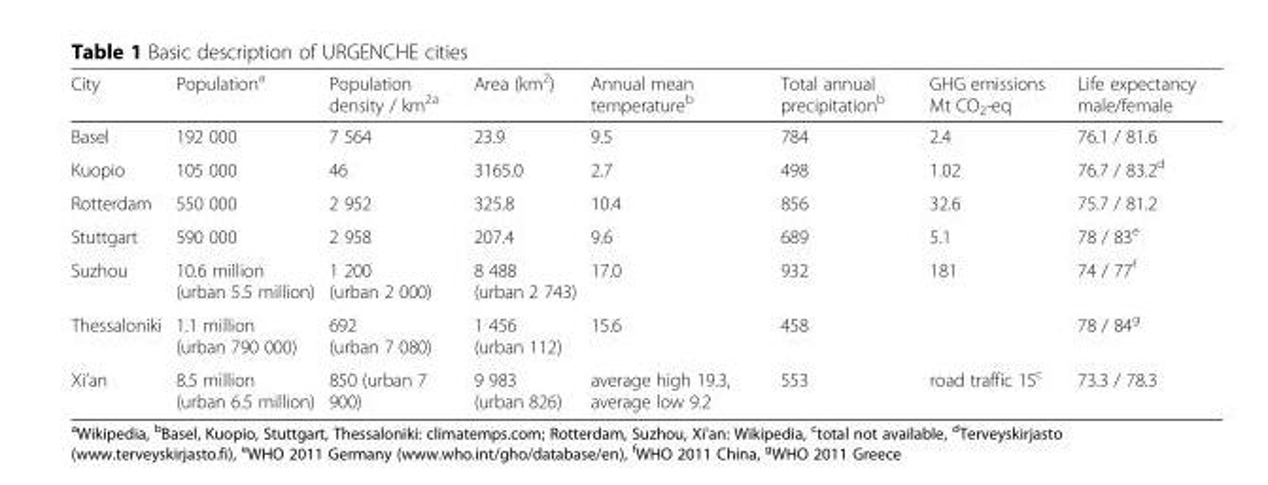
<table><thead><tr><td>City</td><td>Population<sup>a</sup></td><td>Population density / km<sup>2a</sup></td><td>Area (km<sup>2</sup>)</td><td>Annual mean temperature<sup>b</sup></td><td>Total annual precipitation<sup>b</sup></td><td>GHG emissions Mt CO<sub>2</sub>-eq</td><td>Life expectancy male/female</td></tr></thead><tbody><tr><td>Basel</td><td>192 000</td><td>7 564</td><td>23.9</td><td>9.5</td><td>784</td><td>2.4</td><td>76.1 / 81.6</td></tr><tr><td>Kuopio</td><td>105 000</td><td>46</td><td>3165.0</td><td>2.7</td><td>498</td><td>1.02</td><td>76.7 / 83.2<sup>d</sup></td></tr><tr><td>Rotterdam</td><td>550 000</td><td>2 952</td><td>325.8</td><td>10.4</td><td>856</td><td>32.6</td><td>75.7 / 81.2</td></tr><tr><td>Stuttgart</td><td>590 000</td><td>2 958</td><td>207.4</td><td>9.6</td><td>689</td><td>5.1</td><td>78 / 83<sup>e</sup></td></tr><tr><td>Suzhou</td><td>10.6 million (urban 5.5 million)</td><td>1 200 (urban 2 000)</td><td>8 488 (urban 2 743)</td><td>17.0</td><td>932</td><td>181</td><td>74 / 77<sup>f</sup></td></tr><tr><td>Thessaloniki</td><td>1.1 million (urban 790 000)</td><td>692 (urban 7 080)</td><td>1 456 (urban 112)</td><td>15.6</td><td>458</td><td></td><td>78 / 84<sup>g</sup></td></tr><tr><td>Xi’an</td><td>8.5 million (urban 6.5 million)</td><td>850 (urban 7 900)</td><td>9 983 (urban 826)</td><td>average high 19.3, average low 9.2</td><td>553</td><td>road traffic 15<sup>c</sup></td><td>73.3 / 78.3</td></tr></tbody></table>